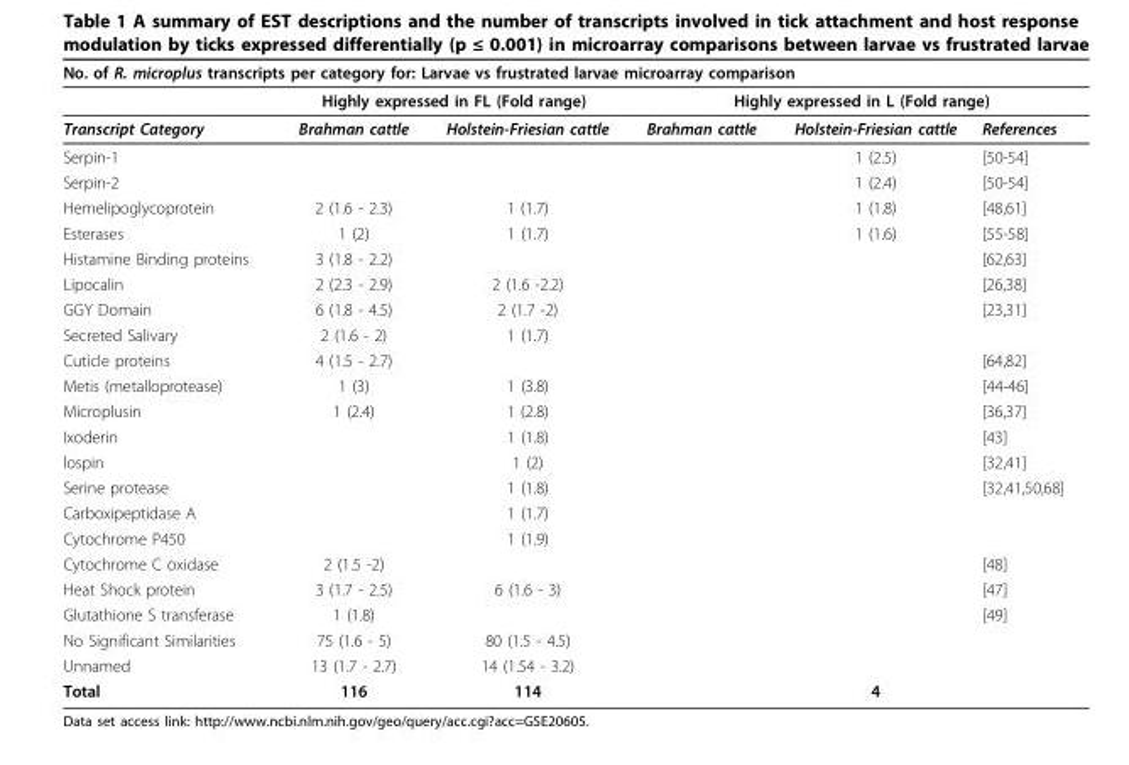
<table><thead><tr><td colspan="6">No. of R. microplus transcripts per category for: Larvae vs frustrated larvae microarray comparison</td></tr><tr><td rowspan="2">Transcript Category</td><td colspan="2">Highly expressed in FL (Fold range)</td><td colspan="3">Highly expressed in L (Fold range)</td></tr><tr><td>Brahman cattle</td><td>Holstein-Friesian cattle</td><td>Brahman cattle</td><td>Holstein-Friesian cattle</td><td>References</td></tr></thead><tbody><tr><td>Serpin-1</td><td></td><td></td><td></td><td>1 (2.5)</td><td>[50-54]</td></tr><tr><td>Serpin-2</td><td></td><td></td><td></td><td>1 (2.4)</td><td>[50-54]</td></tr><tr><td>Hemelipoglycoprotein</td><td>2 (1.6 - 2.3)</td><td>1 (1.7)</td><td></td><td>1 (1.8)</td><td>[48,61]</td></tr><tr><td>Esterases</td><td>1 (2)</td><td>1 (1.7)</td><td></td><td>1 (1.6)</td><td>[55-58]</td></tr><tr><td>Histamine Binding proteins</td><td>3 (1.8 - 2.2)</td><td></td><td></td><td></td><td>[62,63]</td></tr><tr><td>Lipocalin</td><td>2 (2.3 - 2.9)</td><td>2 (1.6 -2.2)</td><td></td><td></td><td>[26,38]</td></tr><tr><td>GGY Domain</td><td>6 (1.8 - 4.5)</td><td>2 (1.7 -2)</td><td></td><td></td><td>[23,31]</td></tr><tr><td>Secreted Salivary</td><td>2 (1.6 - 2)</td><td>1 (1.7)</td><td></td><td></td><td></td></tr><tr><td>Cuticle proteins</td><td>4 (1.5 - 2.7)</td><td></td><td></td><td></td><td>[64,82]</td></tr><tr><td>Metis (metalloprotease)</td><td>1 (3)</td><td>1 (3.8)</td><td></td><td></td><td>[44-46]</td></tr><tr><td>Microplusin</td><td>1 (2.4)</td><td>1 (2.8)</td><td></td><td></td><td>[36,37]</td></tr><tr><td>Ixoderin</td><td></td><td>1 (1.8)</td><td></td><td></td><td>[43]</td></tr><tr><td>lospin</td><td></td><td>1 (2)</td><td></td><td></td><td>[32,41]</td></tr><tr><td>Serine protease</td><td></td><td>1 (1.8)</td><td></td><td></td><td>[32,41,50,68]</td></tr><tr><td>Carboxipeptidase A</td><td></td><td>1 (1.7)</td><td></td><td></td><td></td></tr><tr><td>Cytochrome P450</td><td></td><td>1 (1.9)</td><td></td><td></td><td></td></tr><tr><td>Cytochrome C oxidase</td><td>2 (1.5 -2)</td><td></td><td></td><td></td><td>[48]</td></tr><tr><td>Heat Shock protein</td><td>3 (1.7 - 2.5)</td><td>6 (1.6 - 3)</td><td></td><td></td><td>[47]</td></tr><tr><td>Glutathione S transferase</td><td>1 (1.8)</td><td></td><td></td><td></td><td>[49]</td></tr><tr><td>No Significant Similarities</td><td>75 (1.6 - 5)</td><td>80 (1.5 - 4.5)</td><td></td><td></td><td></td></tr><tr><td>Unnamed</td><td>13 (1.7 - 2.7)</td><td>14 (1.54 - 3.2)</td><td></td><td></td><td></td></tr><tr><td>Total</td><td>116</td><td>114</td><td></td><td>4</td><td></td></tr></tbody></table>